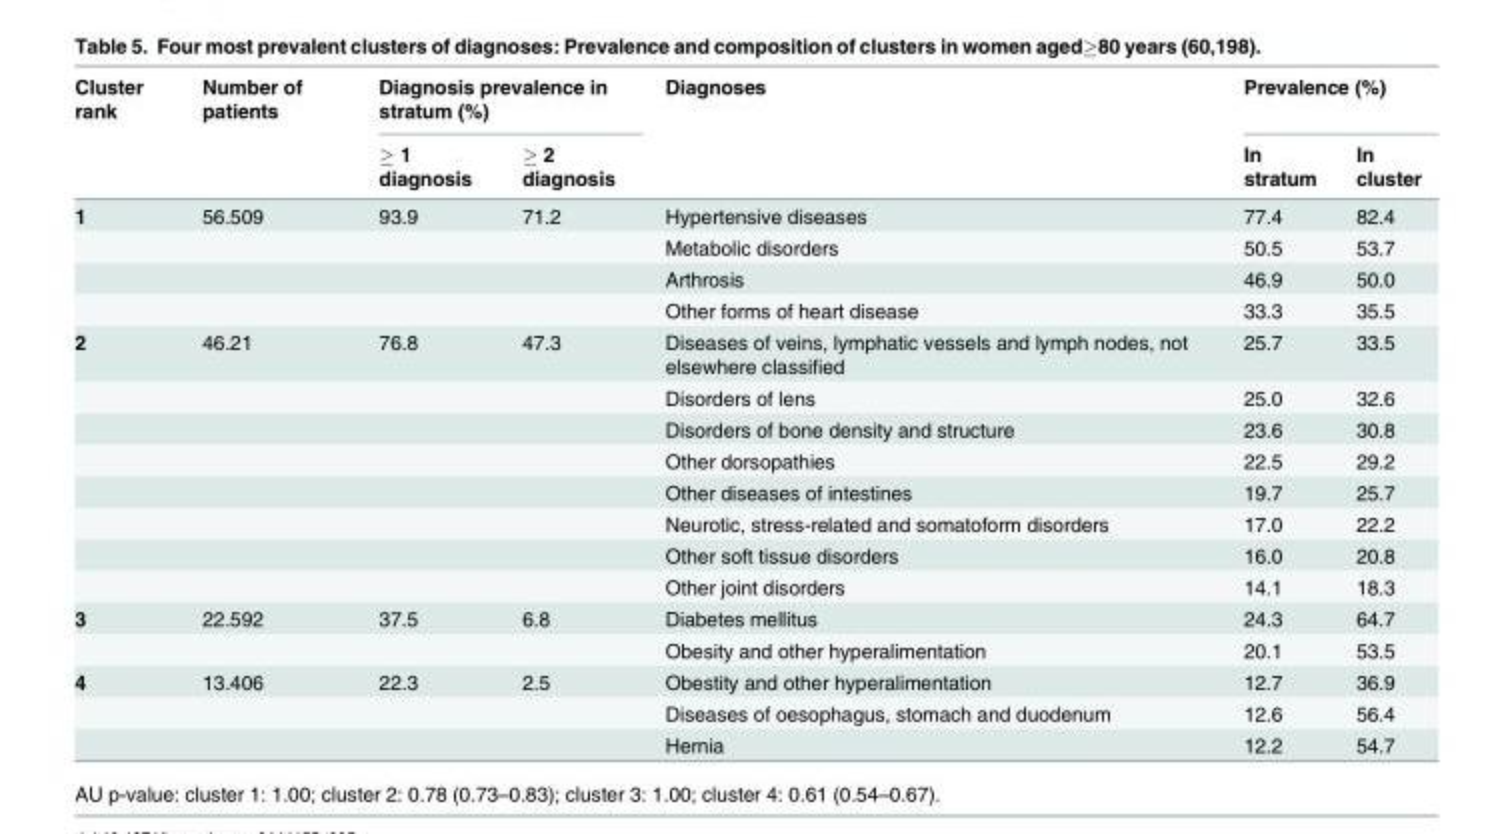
<table><thead><tr><td rowspan="2">Cluster rank</td><td rowspan="2">Number of patients</td><td colspan="2">Diagnosis prevalence in stratum (%)</td><td rowspan="2">Diagnoses</td><td colspan="2">Prevalence (%)</td></tr><tr><td>≥ 1 diagnosis</td><td>≥ 2 diagnosis</td><td>In stratum</td><td>In cluster</td></tr></thead><tbody><tr><td rowspan="4">1</td><td>56.509</td><td>93.9</td><td>71.2</td><td>Hypertensive diseases</td><td>77.4</td><td>82.4</td></tr><tr><td></td><td></td><td></td><td>Metabolic disorders</td><td>50.5</td><td>53.7</td></tr><tr><td></td><td></td><td></td><td>Arthrosis</td><td>46.9</td><td>50.0</td></tr><tr><td></td><td></td><td></td><td>Other forms of heart disease</td><td>33.3</td><td>35.5</td></tr><tr><td rowspan="8">2</td><td>46.21</td><td>76.8</td><td>47.3</td><td>Diseases of veins, lymphatic vessels and lymph nodes, not elsewhere classified</td><td>25.7</td><td>33.5</td></tr><tr><td></td><td></td><td></td><td>Disorders of lens</td><td>25.0</td><td>32.6</td></tr><tr><td></td><td></td><td></td><td>Disorders of bone density and structure</td><td>23.6</td><td>30.8</td></tr><tr><td></td><td></td><td></td><td>Other dorsopathies</td><td>22.5</td><td>29.2</td></tr><tr><td></td><td></td><td></td><td>Other diseases of intestines</td><td>19.7</td><td>25.7</td></tr><tr><td></td><td></td><td></td><td>Neurotic, stress-related and somatoform disorders</td><td>17.0</td><td>22.2</td></tr><tr><td></td><td></td><td></td><td>Other soft tissue disorders</td><td>16.0</td><td>20.8</td></tr><tr><td></td><td></td><td></td><td>Other joint disorders</td><td>14.1</td><td>18.3</td></tr><tr><td rowspan="2">3</td><td>22.592</td><td>37.5</td><td>6.8</td><td>Diabetes mellitus</td><td>24.3</td><td>64.7</td></tr><tr><td></td><td></td><td></td><td>Obesity and other hyperalimentation</td><td>20.1</td><td>53.5</td></tr><tr><td rowspan="3">4</td><td>13.406</td><td>22.3</td><td>2.5</td><td>Obestity and other hyperalimentation</td><td>12.7</td><td>36.9</td></tr><tr><td></td><td></td><td></td><td>Diseases of oesophagus, stomach and duodenum</td><td>12.6</td><td>56.4</td></tr><tr><td></td><td></td><td></td><td>Hernia</td><td>12.2</td><td>54.7</td></tr></tbody></table>